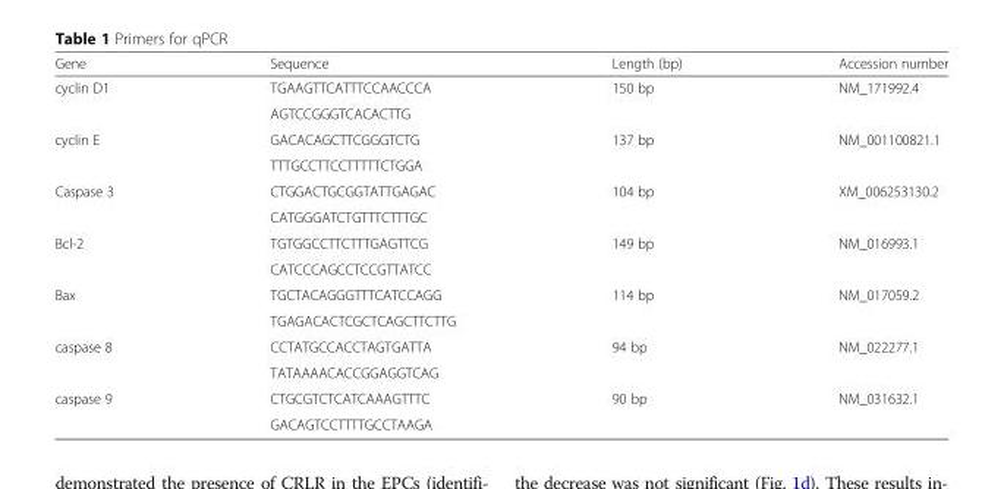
<table><thead><tr><td>Gene</td><td>Sequence</td><td>Length (bp)</td><td>Accession number</td></tr></thead><tbody><tr><td rowspan="2">cyclin D1</td><td>TGAAGTTCATTTCCAACCCA</td><td rowspan="2">150 bp</td><td rowspan="2">NM_171992.4</td></tr><tr><td>AGTCCGGGTCACACTTG</td></tr><tr><td rowspan="2">cyclin E</td><td>GACACAGCTTCGGGTCTG</td><td rowspan="2">137 bp</td><td rowspan="2">NM_001100821.1</td></tr><tr><td>TTTGCCTTCCTTTTTCTGGA</td></tr><tr><td rowspan="2">Caspase 3</td><td>CTGGACTGCGGTATTGAGAC</td><td rowspan="2">104 bp</td><td rowspan="2">XM_006253130.2</td></tr><tr><td>CATGGGATCTGTTTCTTTGC</td></tr><tr><td rowspan="2">Bcl-2</td><td>TGTGGCCTTCTTTGAGTTCG</td><td rowspan="2">149 bp</td><td rowspan="2">NM_016993.1</td></tr><tr><td>CATCCCAGCCTCCGTTATCC</td></tr><tr><td rowspan="2">Bax</td><td>TGCTACAGGGTTTCATCCAGG</td><td rowspan="2">114 bp</td><td rowspan="2">NM_017059.2</td></tr><tr><td>TGAGACACTCGCTCAGCTTCTTG</td></tr><tr><td rowspan="2">caspase 8</td><td>CCTATGCCACCTAGTGATTA</td><td rowspan="2">94 bp</td><td rowspan="2">NM_022277.1</td></tr><tr><td>TATAAAACACCGGAGGTCAG</td></tr><tr><td rowspan="2">caspase 9</td><td>CTGCGTCTCATCAAAGTTTC</td><td rowspan="2">90 bp</td><td rowspan="2">NM_031632.1</td></tr><tr><td>GACAGTCCTTTTGCCTAAGA</td></tr></tbody></table>